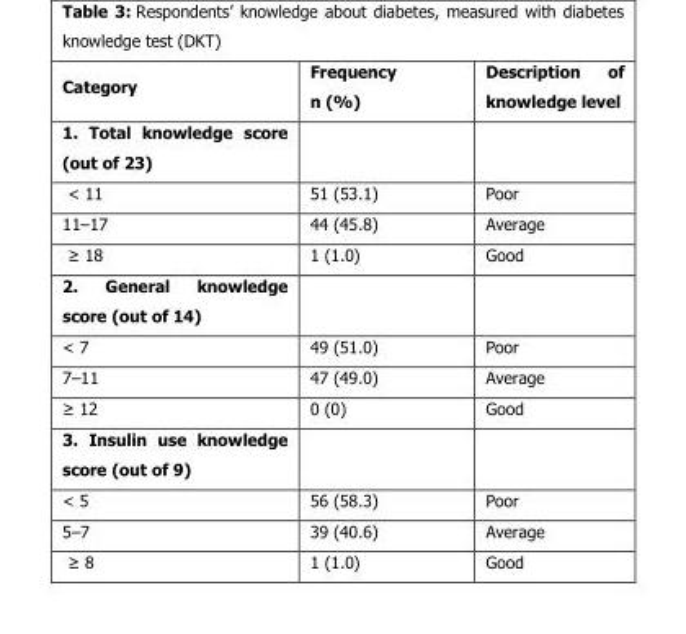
<table><thead><tr><td>Category</td><td>Frequency n (%)</td><td>Description of knowledge level</td></tr></thead><tbody><tr><td colspan="3">1. Total knowledge score (out of 23)</td></tr><tr><td>&lt; 11</td><td>51 (53.1)</td><td>Poor</td></tr><tr><td>11–17</td><td>44 (45.8)</td><td>Average</td></tr><tr><td>≥ 18</td><td>1 (1.0)</td><td>Good</td></tr><tr><td colspan="3">2. General knowledge score (out of 14)</td></tr><tr><td>&lt; 7</td><td>49 (51.0)</td><td>Poor</td></tr><tr><td>7–11</td><td>47 (49.0)</td><td>Average</td></tr><tr><td>≥ 12</td><td>0 (0)</td><td>Good</td></tr><tr><td colspan="3">3. Insulin use knowledge score (out of 9)</td></tr><tr><td>&lt; 5</td><td>56 (58.3)</td><td>Poor</td></tr><tr><td>5–7</td><td>39 (40.6)</td><td>Average</td></tr><tr><td>≥ 8</td><td>1 (1.0)</td><td>Good</td></tr></tbody></table>